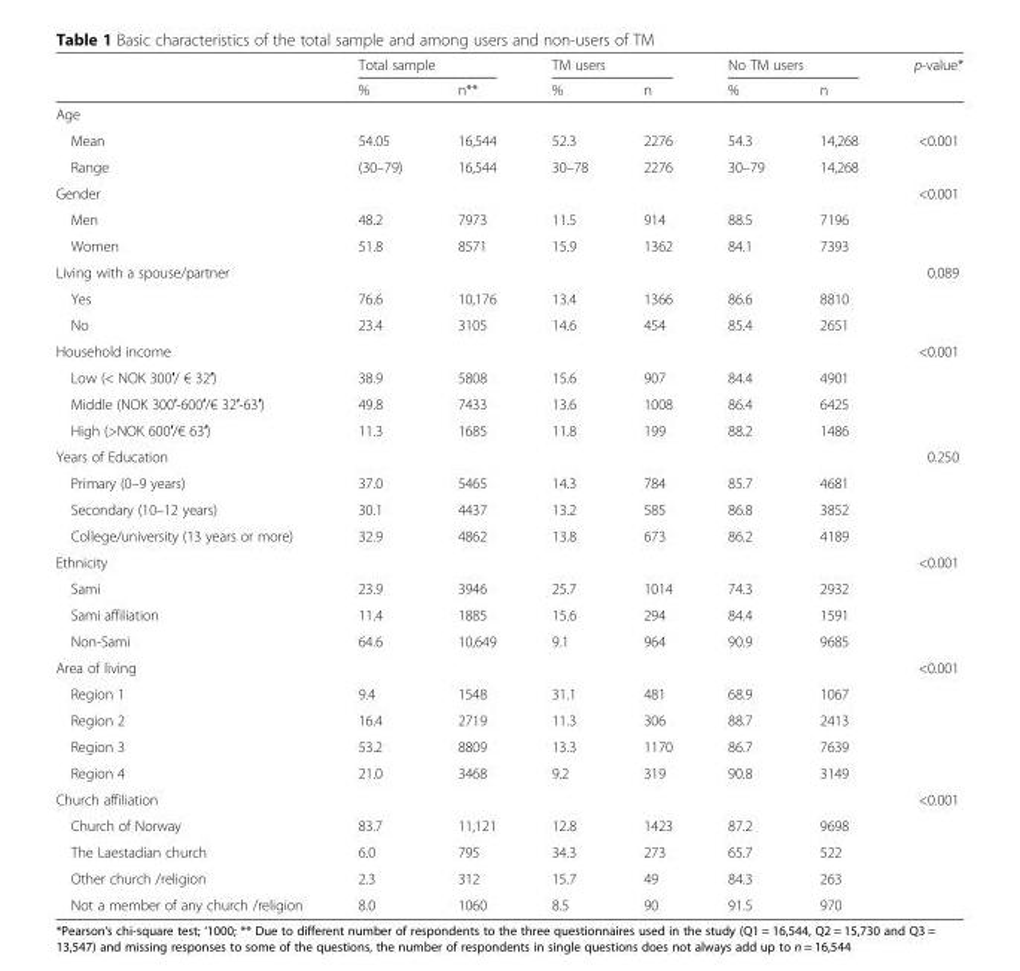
<table><thead><tr><td rowspan="2"></td><td colspan="2">Total sample</td><td colspan="2">TM users</td><td colspan="2">No TM users</td><td rowspan="2">p-value*</td></tr><tr><td>%</td><td>n**</td><td>%</td><td>n</td><td>%</td><td>n</td></tr></thead><tbody><tr><td colspan="8">Age</td></tr><tr><td>Mean</td><td>54.05</td><td>16,544</td><td>52.3</td><td>2276</td><td>54.3</td><td>14,268</td><td>&lt;0.001</td></tr><tr><td>Range</td><td>(30–79)</td><td>16,544</td><td>30–78</td><td>2276</td><td>30–79</td><td>14,268</td><td></td></tr><tr><td>Gender</td><td></td><td></td><td></td><td></td><td></td><td></td><td>&lt;0.001</td></tr><tr><td>Men</td><td>48.2</td><td>7973</td><td>11.5</td><td>914</td><td>88.5</td><td>7196</td><td></td></tr><tr><td>Women</td><td>51.8</td><td>8571</td><td>15.9</td><td>1362</td><td>84.1</td><td>7393</td><td></td></tr><tr><td>Living with a spouse/partner</td><td></td><td></td><td></td><td></td><td></td><td></td><td>0.089</td></tr><tr><td>Yes</td><td>76.6</td><td>10,176</td><td>13.4</td><td>1366</td><td>86.6</td><td>8810</td><td></td></tr><tr><td>No</td><td>23.4</td><td>3105</td><td>14.6</td><td>454</td><td>85.4</td><td>2651</td><td></td></tr><tr><td>Household income</td><td></td><td></td><td></td><td></td><td></td><td></td><td>&lt;0.001</td></tr><tr><td>Low (&lt; NOK 300′/ € 32′)</td><td>38.9</td><td>5808</td><td>15.6</td><td>907</td><td>84.4</td><td>4901</td><td></td></tr><tr><td>Middle (NOK 300′-600′/€ 32′-63′)</td><td>49.8</td><td>7433</td><td>13.6</td><td>1008</td><td>86.4</td><td>6425</td><td></td></tr><tr><td>High (&gt;NOK 600′/€ 63′)</td><td>11.3</td><td>1685</td><td>11.8</td><td>199</td><td>88.2</td><td>1486</td><td></td></tr><tr><td>Years of Education</td><td></td><td></td><td></td><td></td><td></td><td></td><td>0.250</td></tr><tr><td>Primary (0–9 years)</td><td>37.0</td><td>5465</td><td>14.3</td><td>784</td><td>85.7</td><td>4681</td><td></td></tr><tr><td>Secondary (10–12 years)</td><td>30.1</td><td>4437</td><td>13.2</td><td>585</td><td>86.8</td><td>3852</td><td></td></tr><tr><td>College/university (13 years or more)</td><td>32.9</td><td>4862</td><td>13.8</td><td>673</td><td>86.2</td><td>4189</td><td></td></tr><tr><td>Ethnicity</td><td></td><td></td><td></td><td></td><td></td><td></td><td>&lt;0.001</td></tr><tr><td>Sami</td><td>23.9</td><td>3946</td><td>25.7</td><td>1014</td><td>74.3</td><td>2932</td><td></td></tr><tr><td>Sami affiliation</td><td>11.4</td><td>1885</td><td>15.6</td><td>294</td><td>84.4</td><td>1591</td><td></td></tr><tr><td>Non-Sami</td><td>64.6</td><td>10,649</td><td>9.1</td><td>964</td><td>90.9</td><td>9685</td><td></td></tr><tr><td>Area of living</td><td></td><td></td><td></td><td></td><td></td><td></td><td>&lt;0.001</td></tr><tr><td>Region 1</td><td>9.4</td><td>1548</td><td>31.1</td><td>481</td><td>68.9</td><td>1067</td><td></td></tr><tr><td>Region 2</td><td>16.4</td><td>2719</td><td>11.3</td><td>306</td><td>88.7</td><td>2413</td><td></td></tr><tr><td>Region 3</td><td>53.2</td><td>8809</td><td>13.3</td><td>1170</td><td>86.7</td><td>7639</td><td></td></tr><tr><td>Region 4</td><td>21.0</td><td>3468</td><td>9.2</td><td>319</td><td>90.8</td><td>3149</td><td></td></tr><tr><td>Church affiliation</td><td></td><td></td><td></td><td></td><td></td><td></td><td>&lt;0.001</td></tr><tr><td>Church of Norway</td><td>83.7</td><td>11,121</td><td>12.8</td><td>1423</td><td>87.2</td><td>9698</td><td></td></tr><tr><td>The Laestadian church</td><td>6.0</td><td>795</td><td>34.3</td><td>273</td><td>65.7</td><td>522</td><td></td></tr><tr><td>Other church /religion</td><td>2.3</td><td>312</td><td>15.7</td><td>49</td><td>84.3</td><td>263</td><td></td></tr><tr><td>Not a member of any church /religion</td><td>8.0</td><td>1060</td><td>8.5</td><td>90</td><td>91.5</td><td>970</td><td></td></tr></tbody></table>